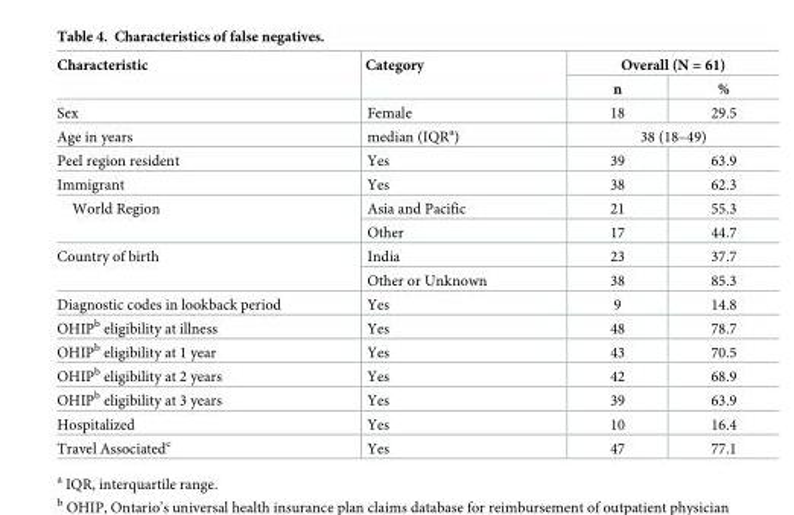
<table><thead><tr><td rowspan="2">Characteristic</td><td rowspan="2">Category</td><td colspan="2">Overall (N = 61)</td></tr><tr><td>n</td><td>%</td></tr></thead><tbody><tr><td>Sex</td><td>Female</td><td>18</td><td>29.5</td></tr><tr><td>Age in years</td><td>median (IQR<sup>a</sup>)</td><td colspan="2">38 (18–49)</td></tr><tr><td>Peel region resident</td><td>Yes</td><td>39</td><td>63.9</td></tr><tr><td>Immigrant</td><td>Yes</td><td>38</td><td>62.3</td></tr><tr><td rowspan="2">World Region</td><td>Asia and Pacific</td><td>21</td><td>55.3</td></tr><tr><td>Other</td><td>17</td><td>44.7</td></tr><tr><td rowspan="2">Country of birth</td><td>India</td><td>23</td><td>37.7</td></tr><tr><td>Other or Unknown</td><td>38</td><td>85.3</td></tr><tr><td>Diagnostic codes in lookback period</td><td>Yes</td><td>9</td><td>14.8</td></tr><tr><td>OHIP<sup>b</sup> eligibility at illness</td><td>Yes</td><td>48</td><td>78.7</td></tr><tr><td>OHIP<sup>b</sup> eligibility at 1 year</td><td>Yes</td><td>43</td><td>70.5</td></tr><tr><td>OHIP<sup>b</sup> eligibility at 2 years</td><td>Yes</td><td>42</td><td>68.9</td></tr><tr><td>OHIP<sup>b</sup> eligibility at 3 years</td><td>Yes</td><td>39</td><td>63.9</td></tr><tr><td>Hospitalized</td><td>Yes</td><td>10</td><td>16.4</td></tr><tr><td>Travel Associated<sup>c</sup></td><td>Yes</td><td>47</td><td>77.1</td></tr></tbody></table>